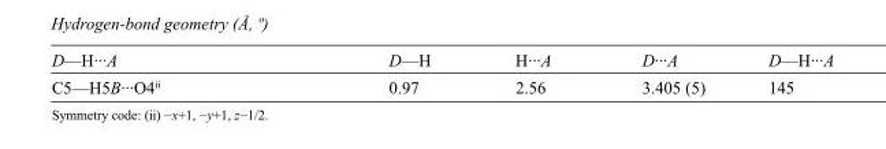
<table><tbody><tr><td>D—H···A</td><td>D—H</td><td>H···A</td><td>D···A</td><td>D—H···A</td></tr><tr><td>C5—H5B···O4<sup>ii</sup></td><td>0.97</td><td>2.56</td><td>3.405 (5)</td><td>145</td></tr></tbody></table>